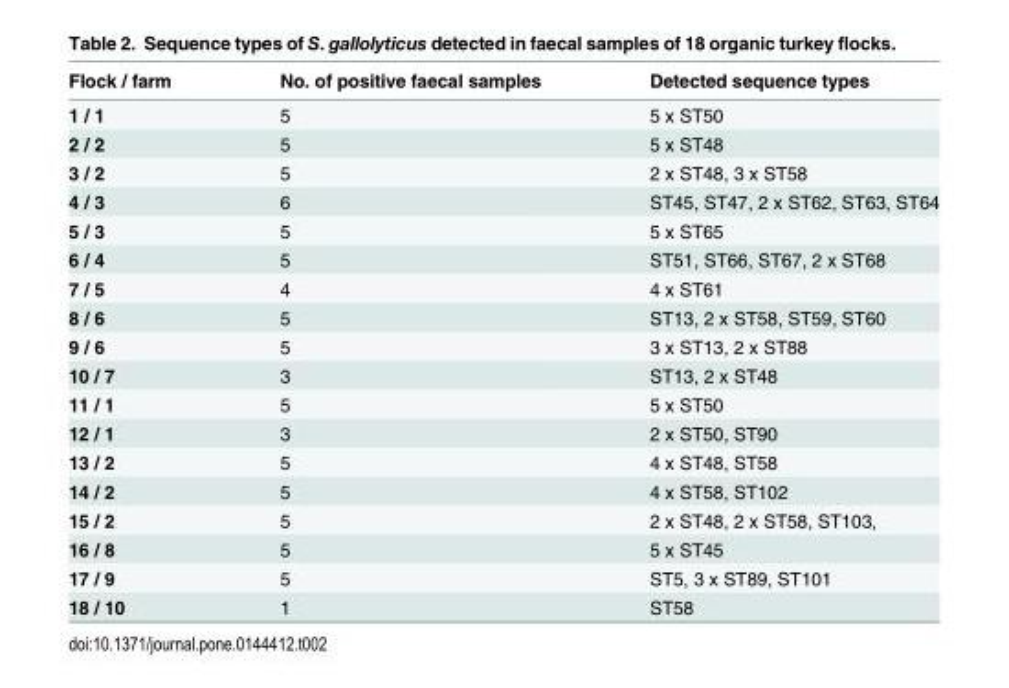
<table><thead><tr><td>Flock / farm</td><td>No. of positive faecal samples</td><td>Detected sequence types</td></tr></thead><tbody><tr><td>1 / 1</td><td>5</td><td>5 x ST50</td></tr><tr><td>2 / 2</td><td>5</td><td>5 x ST48</td></tr><tr><td>3 / 2</td><td>5</td><td>2 x ST48, 3 x ST58</td></tr><tr><td>4 / 3</td><td>6</td><td>ST45, ST47, 2 x ST62, ST63, ST64</td></tr><tr><td>5 / 3</td><td>5</td><td>5 x ST65</td></tr><tr><td>6 / 4</td><td>5</td><td>ST51, ST66, ST67, 2 x ST68</td></tr><tr><td>7 / 5</td><td>4</td><td>4 x ST61</td></tr><tr><td>8 / 6</td><td>5</td><td>ST13, 2 x ST58, ST59, ST60</td></tr><tr><td>9 / 6</td><td>5</td><td>3 x ST13, 2 x ST88</td></tr><tr><td>10 / 7</td><td>3</td><td>ST13, 2 x ST48</td></tr><tr><td>11 / 1</td><td>5</td><td>5 x ST50</td></tr><tr><td>12 / 1</td><td>3</td><td>2 x ST50, ST90</td></tr><tr><td>13 / 2</td><td>5</td><td>4 x ST48, ST58</td></tr><tr><td>14 / 2</td><td>5</td><td>4 x ST58, ST102</td></tr><tr><td>15 / 2</td><td>5</td><td>2 x ST48, 2 x ST58, ST103,</td></tr><tr><td>16 / 8</td><td>5</td><td>5 x ST45</td></tr><tr><td>17 / 9</td><td>5</td><td>ST5, 3 x ST89, ST101</td></tr><tr><td>18 / 10</td><td>1</td><td>ST58</td></tr></tbody></table>